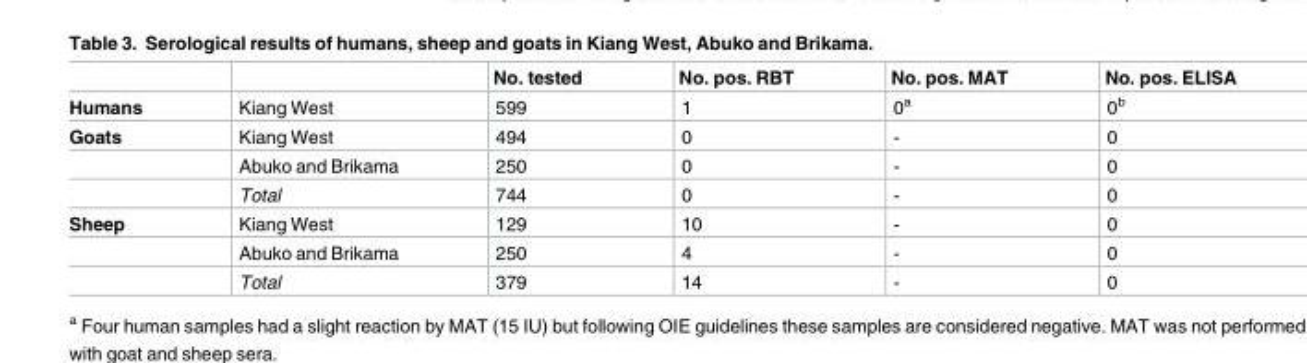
<table><thead><tr><td></td><td></td><td>No. tested</td><td>No. pos. RBT</td><td>No. pos. MAT</td><td>No. pos. ELISA</td></tr></thead><tbody><tr><td>Humans</td><td>Kiang West</td><td>599</td><td>1</td><td>0<sup>a</sup></td><td>0<sup>b</sup></td></tr><tr><td rowspan="3">Goats</td><td>Kiang West</td><td>494</td><td>0</td><td>-</td><td>0</td></tr><tr><td>Abuko and Brikama</td><td>250</td><td>0</td><td>-</td><td>0</td></tr><tr><td>Total</td><td>744</td><td>0</td><td>-</td><td>0</td></tr><tr><td rowspan="3">Sheep</td><td>Kiang West</td><td>129</td><td>10</td><td>-</td><td>0</td></tr><tr><td>Abuko and Brikama</td><td>250</td><td>4</td><td>-</td><td>0</td></tr><tr><td>Total</td><td>379</td><td>14</td><td>-</td><td>0</td></tr></tbody></table>